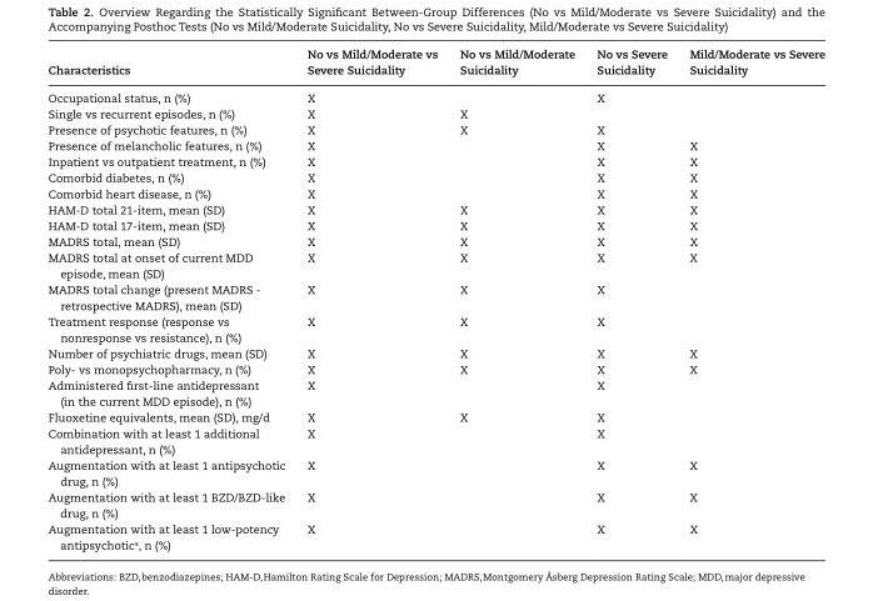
<table><thead><tr><td>Characteristics</td><td>No vs Mild/Moderate vs Severe Suicidality</td><td>No vs Mild/Moderate Suicidality</td><td>No vs Severe Suicidality</td><td>Mild/Moderate vs Severe Suicidality</td></tr></thead><tbody><tr><td>Occupational status, n (%)</td><td>X</td><td></td><td>X</td><td></td></tr><tr><td>Single vs recurrent episodes, n (%)</td><td>X</td><td>X</td><td></td><td></td></tr><tr><td>Presence of psychotic features, n (%)</td><td>X</td><td>X</td><td>X</td><td></td></tr><tr><td>Presence of melancholic features, n (%)</td><td>X</td><td></td><td>X</td><td>X</td></tr><tr><td>Inpatient vs outpatient treatment, n (%)</td><td>X</td><td></td><td>X</td><td>X</td></tr><tr><td>Comorbid diabetes, n (%)</td><td>X</td><td></td><td>X</td><td>X</td></tr><tr><td>Comorbid heart disease, n (%)</td><td>X</td><td></td><td>X</td><td>X</td></tr><tr><td>HAM-D total 21-item, mean (SD)</td><td>X</td><td>X</td><td>X</td><td>X</td></tr><tr><td>HAM-D total 17-item, mean (SD)</td><td>X</td><td>X</td><td>X</td><td>X</td></tr><tr><td>MADRS total, mean (SD)</td><td>X</td><td>X</td><td>X</td><td>X</td></tr><tr><td>MADRS total at onset of current MDD episode, mean (SD)</td><td>X</td><td>X</td><td>X</td><td>X</td></tr><tr><td>MADRS total change (present MADRS - retrospective MADRS), mean (SD)</td><td>X</td><td>X</td><td>X</td><td></td></tr><tr><td>Treatment response (response vs nonresponse vs resistance), n (%)</td><td>X</td><td>X</td><td>X</td><td></td></tr><tr><td>Number of psychiatric drugs, mean (SD)</td><td>X</td><td>X</td><td>X</td><td>X</td></tr><tr><td>Poly- vs monopsychopharmacy, n (%)</td><td>X</td><td>X</td><td>X</td><td>X</td></tr><tr><td>Administered first-line antidepressant (in the current MDD episode), n (%)</td><td>X</td><td></td><td>X</td><td></td></tr><tr><td>Fluoxetine equivalents, mean (SD), mg/d</td><td>X</td><td>X</td><td>X</td><td></td></tr><tr><td>Combination with at least 1 additional antidepressant, n (%)</td><td>X</td><td></td><td>X</td><td></td></tr><tr><td>Augmentation with at least 1 antipsychotic drug, n (%)</td><td>X</td><td></td><td>X</td><td>X</td></tr><tr><td>Augmentation with at least 1 BZD/BZD-like drug, n (%)</td><td>X</td><td></td><td>X</td><td>X</td></tr><tr><td>Augmentation with at least 1 low-potency antipsychotic<sup>a</sup>, n (%)</td><td>X</td><td></td><td>X</td><td>X</td></tr></tbody></table>